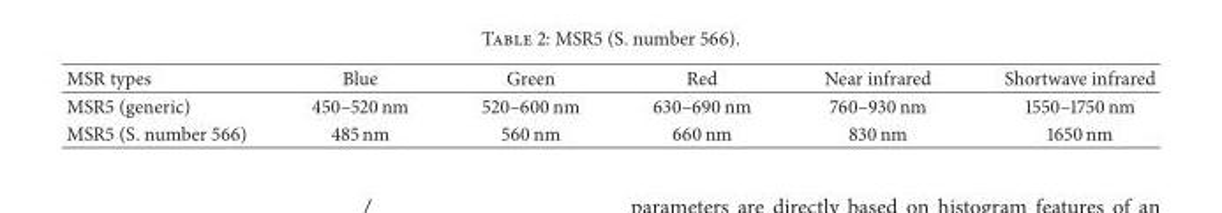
<table><thead><tr><td>MSR types</td><td>Blue</td><td>Green</td><td>Red</td><td>Near infrared</td><td>Shortwave infrared</td></tr></thead><tbody><tr><td>MSR5 (generic)</td><td>450–520 nm</td><td>520–600 nm</td><td>630–690 nm</td><td>760–930 nm</td><td>1550–1750 nm</td></tr><tr><td>MSR5 (S. number 566)</td><td>485 nm</td><td>560 nm</td><td>660 nm</td><td>830 nm</td><td>1650 nm</td></tr></tbody></table>